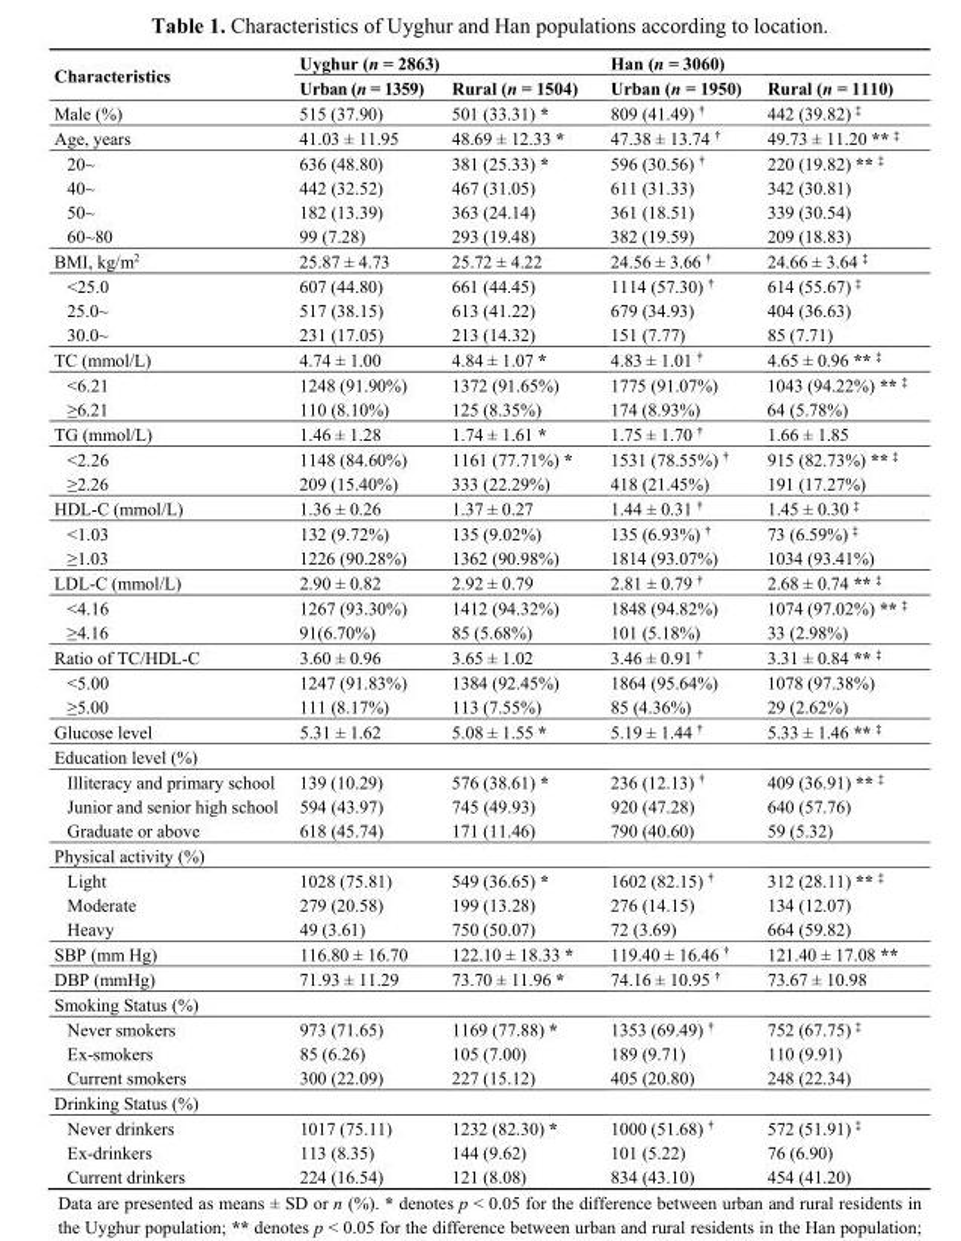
<table><thead><tr><td rowspan="2">Characteristics</td><td colspan="2">Uyghur (n = 2863)</td><td colspan="2">Han (n = 3060)</td></tr><tr><td>Urban (n = 1359)</td><td>Rural (n = 1504)</td><td>Urban (n = 1950)</td><td>Rural (n = 1110)</td></tr></thead><tbody><tr><td>Male (%)</td><td>515 (37.90)</td><td>501 (33.31) *</td><td>809 (41.49) <sup>†</sup></td><td>442 (39.82) <sup>‡</sup></td></tr><tr><td>Age, years</td><td>41.03 ± 11.95</td><td>48.69 ± 12.33 *</td><td>47.38 ± 13.74 <sup>†</sup></td><td>49.73 ± 11.20 ** <sup>‡</sup></td></tr><tr><td>20~</td><td>636 (48.80)</td><td>381 (25.33) *</td><td>596 (30.56) <sup>†</sup></td><td>220 (19.82) ** <sup>‡</sup></td></tr><tr><td>40~</td><td>442 (32.52)</td><td>467 (31.05)</td><td>611 (31.33)</td><td>342 (30.81)</td></tr><tr><td>50~</td><td>182 (13.39)</td><td>363 (24.14)</td><td>361 (18.51)</td><td>339 (30.54)</td></tr><tr><td>60~80</td><td>99 (7.28)</td><td>293 (19.48)</td><td>382 (19.59)</td><td>209 (18.83)</td></tr><tr><td>BMI, kg/m<sup>2</sup></td><td>25.87 ± 4.73</td><td>25.72 ± 4.22</td><td>24.56 ± 3.66 <sup>†</sup></td><td>24.66 ± 3.64 <sup>‡</sup></td></tr><tr><td>&lt;25.0</td><td>607 (44.80)</td><td>661 (44.45)</td><td>1114 (57.30) <sup>†</sup></td><td>614 (55.67) <sup>‡</sup></td></tr><tr><td>25.0~</td><td>517 (38.15)</td><td>613 (41.22)</td><td>679 (34.93)</td><td>404 (36.63)</td></tr><tr><td>30.0~</td><td>231 (17.05)</td><td>213 (14.32)</td><td>151 (7.77)</td><td>85 (7.71)</td></tr><tr><td>TC (mmol/L)</td><td>4.74 ± 1.00</td><td>4.84 ± 1.07 *</td><td>4.83 ± 1.01 <sup>†</sup></td><td>4.65 ± 0.96 ** <sup>‡</sup></td></tr><tr><td>&lt;6.21</td><td>1248 (91.90%)</td><td>1372 (91.65%)</td><td>1775 (91.07%)</td><td>1043 (94.22%) ** <sup>‡</sup></td></tr><tr><td>≥6.21</td><td>110 (8.10%)</td><td>125 (8.35%)</td><td>174 (8.93%)</td><td>64 (5.78%)</td></tr><tr><td>TG (mmol/L)</td><td>1.46 ± 1.28</td><td>1.74 ± 1.61 *</td><td>1.75 ± 1.70 <sup>†</sup></td><td>1.66 ± 1.85</td></tr><tr><td>&lt;2.26</td><td>1148 (84.60%)</td><td>1161 (77.71%) *</td><td>1531 (78.55%) <sup>†</sup></td><td>915 (82.73%) ** <sup>‡</sup></td></tr><tr><td>≥2.26</td><td>209 (15.40%)</td><td>333 (22.29%)</td><td>418 (21.45%)</td><td>191 (17.27%)</td></tr><tr><td>HDL-C (mmol/L)</td><td>1.36 ± 0.26</td><td>1.37 ± 0.27</td><td>1.44 ± 0.31 <sup>†</sup></td><td>1.45 ± 0.30 <sup>‡</sup></td></tr><tr><td>&lt;1.03</td><td>132 (9.72%)</td><td>135 (9.02%)</td><td>135 (6.93%) <sup>†</sup></td><td>73 (6.59%) <sup>‡</sup></td></tr><tr><td>≥1.03</td><td>1226 (90.28%)</td><td>1362 (90.98%)</td><td>1814 (93.07%)</td><td>1034 (93.41%)</td></tr><tr><td>LDL-C (mmol/L)</td><td>2.90 ± 0.82</td><td>2.92 ± 0.79</td><td>2.81 ± 0.79 <sup>†</sup></td><td>2.68 ± 0.74 ** <sup>‡</sup></td></tr><tr><td>&lt;4.16</td><td>1267 (93.30%)</td><td>1412 (94.32%)</td><td>1848 (94.82%)</td><td>1074 (97.02%) ** <sup>‡</sup></td></tr><tr><td>≥4.16</td><td>91(6.70%)</td><td>85 (5.68%)</td><td>101 (5.18%)</td><td>33 (2.98%)</td></tr><tr><td>Ratio of TC/HDL-C</td><td>3.60 ± 0.96</td><td>3.65 ± 1.02</td><td>3.46 ± 0.91 <sup>†</sup></td><td>3.31 ± 0.84 ** <sup>‡</sup></td></tr><tr><td>&lt;5.00</td><td>1247 (91.83%)</td><td>1384 (92.45%)</td><td>1864 (95.64%)</td><td>1078 (97.38%)</td></tr><tr><td>≥5.00</td><td>111 (8.17%)</td><td>113 (7.55%)</td><td>85 (4.36%)</td><td>29 (2.62%)</td></tr><tr><td>Glucose level</td><td>5.31 ± 1.62</td><td>5.08 ± 1.55 *</td><td>5.19 ± 1.44 <sup>†</sup></td><td>5.33 ± 1.46 ** <sup>‡</sup></td></tr><tr><td colspan="5">Education level (%)</td></tr><tr><td>Illiteracy and primary school</td><td>139 (10.29)</td><td>576 (38.61) *</td><td>236 (12.13) <sup>†</sup></td><td>409 (36.91) ** <sup>‡</sup></td></tr><tr><td>Junior and senior high school</td><td>594 (43.97)</td><td>745 (49.93)</td><td>920 (47.28)</td><td>640 (57.76)</td></tr><tr><td>Graduate or above</td><td>618 (45.74)</td><td>171 (11.46)</td><td>790 (40.60)</td><td>59 (5.32)</td></tr><tr><td colspan="5">Physical activity (%)</td></tr><tr><td>Light</td><td>1028 (75.81)</td><td>549 (36.65) *</td><td>1602 (82.15) <sup>†</sup></td><td>312 (28.11) ** <sup>‡</sup></td></tr><tr><td>Moderate</td><td>279 (20.58)</td><td>199 (13.28)</td><td>276 (14.15)</td><td>134 (12.07)</td></tr><tr><td>Heavy</td><td>49 (3.61)</td><td>750 (50.07)</td><td>72 (3.69)</td><td>664 (59.82)</td></tr><tr><td>SBP (mm Hg)</td><td>116.80 ± 16.70</td><td>122.10 ± 18.33 *</td><td>119.40 ± 16.46 <sup>†</sup></td><td>121.40 ± 17.08 **</td></tr><tr><td>DBP (mmHg)</td><td>71.93 ± 11.29</td><td>73.70 ± 11.96 *</td><td>74.16 ± 10.95 <sup>†</sup></td><td>73.67 ± 10.98</td></tr><tr><td colspan="5">Smoking Status (%)</td></tr><tr><td>Never smokers</td><td>973 (71.65)</td><td>1169 (77.88) *</td><td>1353 (69.49) <sup>†</sup></td><td>752 (67.75) <sup>‡</sup></td></tr><tr><td>Ex-smokers</td><td>85 (6.26)</td><td>105 (7.00)</td><td>189 (9.71)</td><td>110 (9.91)</td></tr><tr><td>Current smokers</td><td>300 (22.09)</td><td>227 (15.12)</td><td>405 (20.80)</td><td>248 (22.34)</td></tr><tr><td colspan="5">Drinking Status (%)</td></tr><tr><td>Never drinkers</td><td>1017 (75.11)</td><td>1232 (82.30) *</td><td>1000 (51.68) <sup>†</sup></td><td>572 (51.91) <sup>‡</sup></td></tr><tr><td>Ex-drinkers</td><td>113 (8.35)</td><td>144 (9.62)</td><td>101 (5.22)</td><td>76 (6.90)</td></tr><tr><td>Current drinkers</td><td>224 (16.54)</td><td>121 (8.08)</td><td>834 (43.10)</td><td>454 (41.20)</td></tr></tbody></table>